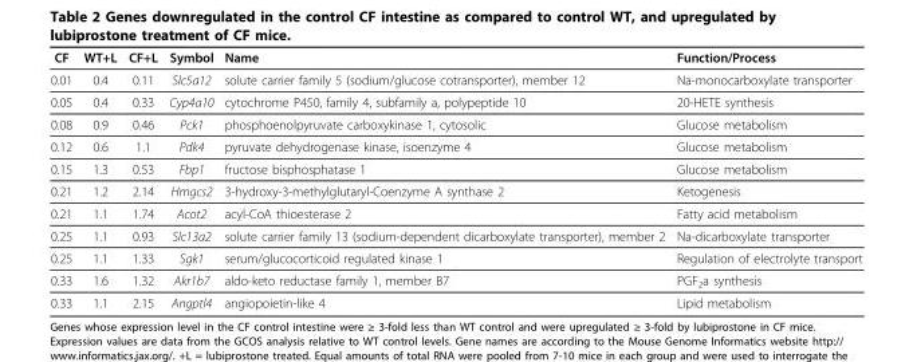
<table><thead><tr><td>CF</td><td>WT+L</td><td>CF+L</td><td>Symbol</td><td>Name</td><td>Function/Process</td></tr></thead><tbody><tr><td>0.01</td><td>0.4</td><td>0.11</td><td>Slc5a12</td><td>solute carrier family 5 (sodium/glucose cotransporter), member 12</td><td>Na-monocarboxylate transporter</td></tr><tr><td>0.05</td><td>0.4</td><td>0.33</td><td>Cyp4a10</td><td>cytochrome P450, family 4, subfamily a, polypeptide 10</td><td>20-HETE synthesis</td></tr><tr><td>0.08</td><td>0.9</td><td>0.46</td><td>Pck1</td><td>phosphoenolpyruvate carboxykinase 1, cytosolic</td><td>Glucose metabolism</td></tr><tr><td>0.12</td><td>0.6</td><td>1.1</td><td>Pdk4</td><td>pyruvate dehydrogenase kinase, isoenzyme 4</td><td>Glucose metabolism</td></tr><tr><td>0.15</td><td>1.3</td><td>0.53</td><td>Fbp1</td><td>fructose bisphosphatase 1</td><td>Glucose metabolism</td></tr><tr><td>0.21</td><td>1.2</td><td>2.14</td><td>Hmgcs2</td><td>3-hydroxy-3-methylglutaryl-Coenzyme A synthase 2</td><td>Ketogenesis</td></tr><tr><td>0.21</td><td>1.1</td><td>1.74</td><td>Acot2</td><td>acyl-CoA thioesterase 2</td><td>Fatty acid metabolism</td></tr><tr><td>0.25</td><td>1.1</td><td>0.93</td><td>Slc13a2</td><td>solute carrier family 13 (sodium-dependent dicarboxylate transporter), member 2</td><td>Na-dicarboxylate transporter</td></tr><tr><td>0.25</td><td>1.1</td><td>1.33</td><td>Sgk1</td><td>serum/glucocorticoid regulated kinase 1</td><td>Regulation of electrolyte transport</td></tr><tr><td>0.33</td><td>1.6</td><td>1.32</td><td>Akr1b7</td><td>aldo-keto reductase family 1, member B7</td><td>PGF<sub>2</sub>a synthesis</td></tr><tr><td>0.33</td><td>1.1</td><td>2.15</td><td>Angptl4</td><td>angiopoietin-like 4</td><td>Lipid metabolism</td></tr></tbody></table>